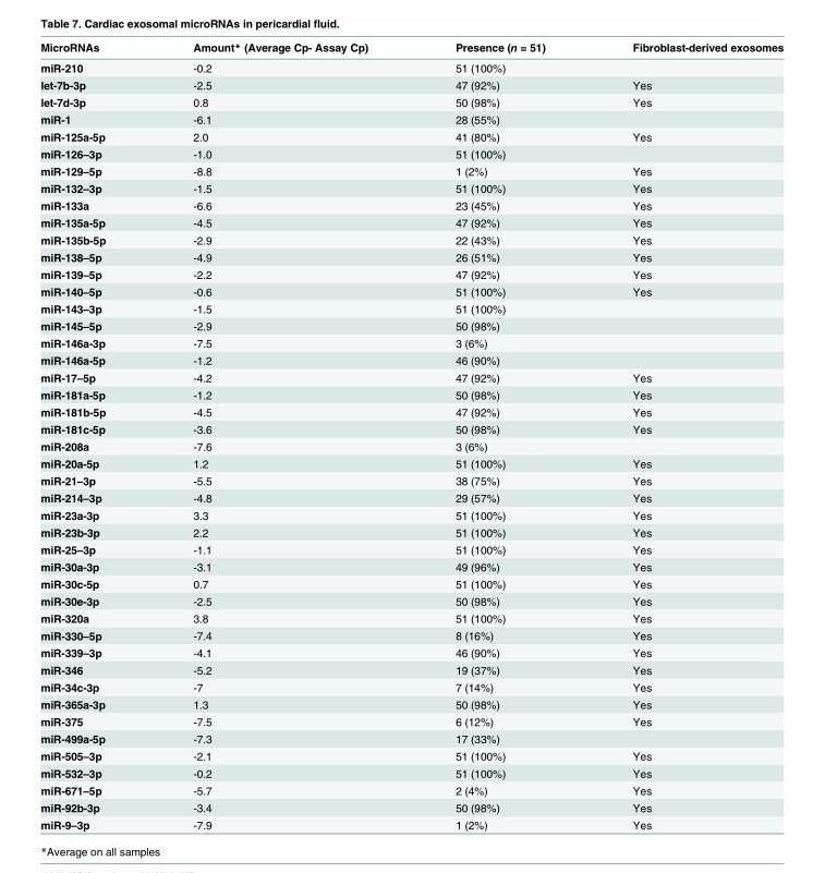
<table><thead><tr><td>MicroRNAs</td><td>Amount* (Average Cp- Assay Cp)</td><td>Presence (n = 51)</td><td>Fibroblast-derived exosomes</td></tr></thead><tbody><tr><td>miR-210</td><td>-0.2</td><td>51 (100%)</td><td></td></tr><tr><td>let-7b-3p</td><td>-2.5</td><td>47 (92%)</td><td>Yes</td></tr><tr><td>let-7d-3p</td><td>0.8</td><td>50 (98%)</td><td>Yes</td></tr><tr><td>miR-1</td><td>-6.1</td><td>28 (55%)</td><td></td></tr><tr><td>miR-125a-5p</td><td>2.0</td><td>41 (80%)</td><td>Yes</td></tr><tr><td>miR-126–3p</td><td>-1.0</td><td>51 (100%)</td><td></td></tr><tr><td>miR-129–5p</td><td>-8.8</td><td>1 (2%)</td><td>Yes</td></tr><tr><td>miR-132–3p</td><td>-1.5</td><td>51 (100%)</td><td>Yes</td></tr><tr><td>miR-133a</td><td>-6.6</td><td>23 (45%)</td><td>Yes</td></tr><tr><td>miR-135a-5p</td><td>-4.5</td><td>47 (92%)</td><td>Yes</td></tr><tr><td>miR-135b-5p</td><td>-2.9</td><td>22 (43%)</td><td>Yes</td></tr><tr><td>miR-138–5p</td><td>-4.9</td><td>26 (51%)</td><td>Yes</td></tr><tr><td>miR-139–5p</td><td>-2.2</td><td>47 (92%)</td><td>Yes</td></tr><tr><td>miR-140–5p</td><td>-0.6</td><td>51 (100%)</td><td>Yes</td></tr><tr><td>miR-143–3p</td><td>-1.5</td><td>51 (100%)</td><td></td></tr><tr><td>miR-145–5p</td><td>-2.9</td><td>50 (98%)</td><td></td></tr><tr><td>miR-146a-3p</td><td>-7.5</td><td>3 (6%)</td><td></td></tr><tr><td>miR-146a-5p</td><td>-1.2</td><td>46 (90%)</td><td></td></tr><tr><td>miR-17–5p</td><td>-4.2</td><td>47 (92%)</td><td>Yes</td></tr><tr><td>miR-181a-5p</td><td>-1.2</td><td>50 (98%)</td><td>Yes</td></tr><tr><td>miR-181b-5p</td><td>-4.5</td><td>47 (92%)</td><td>Yes</td></tr><tr><td>miR-181c-5p</td><td>-3.6</td><td>50 (98%)</td><td>Yes</td></tr><tr><td>miR-208a</td><td>-7.6</td><td>3 (6%)</td><td></td></tr><tr><td>miR-20a-5p</td><td>1.2</td><td>51 (100%)</td><td>Yes</td></tr><tr><td>miR-21–3p</td><td>-5.5</td><td>38 (75%)</td><td>Yes</td></tr><tr><td>miR-214–3p</td><td>-4.8</td><td>29 (57%)</td><td>Yes</td></tr><tr><td>miR-23a-3p</td><td>3.3</td><td>51 (100%)</td><td>Yes</td></tr><tr><td>miR-23b-3p</td><td>2.2</td><td>51 (100%)</td><td>Yes</td></tr><tr><td>miR-25–3p</td><td>-1.1</td><td>51 (100%)</td><td>Yes</td></tr><tr><td>miR-30a-3p</td><td>-3.1</td><td>49 (96%)</td><td>Yes</td></tr><tr><td>miR-30c-5p</td><td>0.7</td><td>51 (100%)</td><td>Yes</td></tr><tr><td>miR-30e-3p</td><td>-2.5</td><td>50 (98%)</td><td>Yes</td></tr><tr><td>miR-320a</td><td>3.8</td><td>51 (100%)</td><td>Yes</td></tr><tr><td>miR-330–5p</td><td>-7.4</td><td>8 (16%)</td><td>Yes</td></tr><tr><td>miR-339–3p</td><td>-4.1</td><td>46 (90%)</td><td>Yes</td></tr><tr><td>miR-346</td><td>-5.2</td><td>19 (37%)</td><td>Yes</td></tr><tr><td>miR-34c-3p</td><td>-7</td><td>7 (14%)</td><td>Yes</td></tr><tr><td>miR-365a-3p</td><td>1.3</td><td>50 (98%)</td><td>Yes</td></tr><tr><td>miR-375</td><td>-7.5</td><td>6 (12%)</td><td>Yes</td></tr><tr><td>miR-499a-5p</td><td>-7.3</td><td>17 (33%)</td><td></td></tr><tr><td>miR-505–3p</td><td>-2.1</td><td>51 (100%)</td><td>Yes</td></tr><tr><td>miR-532–3p</td><td>-0.2</td><td>51 (100%)</td><td>Yes</td></tr><tr><td>miR-671–5p</td><td>-5.7</td><td>2 (4%)</td><td>Yes</td></tr><tr><td>miR-92b-3p</td><td>-3.4</td><td>50 (98%)</td><td>Yes</td></tr><tr><td>miR-9–3p</td><td>-7.9</td><td>1 (2%)</td><td>Yes</td></tr></tbody></table>